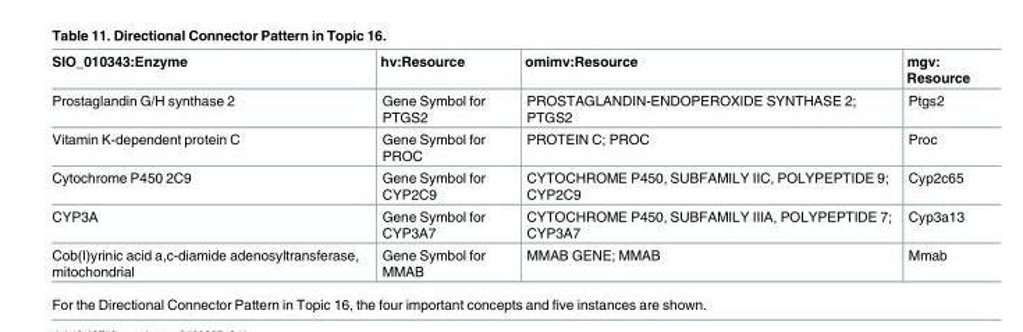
<table><thead><tr><td>SIO_010343:Enzyme</td><td>hv:Resource</td><td>omimv:Resource</td><td>mgv: Resource</td></tr></thead><tbody><tr><td>Prostaglandin G/H synthase 2</td><td>Gene Symbol for PTGS2</td><td>PROSTAGLANDIN-ENDOPEROXIDE SYNTHASE 2; PTGS2</td><td>Ptgs2</td></tr><tr><td>Vitamin K-dependent protein C</td><td>Gene Symbol for PROC</td><td>PROTEIN C; PROC</td><td>Proc</td></tr><tr><td>Cytochrome P450 2C9</td><td>Gene Symbol for CYP2C9</td><td>CYTOCHROME P450, SUBFAMILY IIC, POLYPEPTIDE 9; CYP2C9</td><td>Cyp2c65</td></tr><tr><td>CYP3A</td><td>Gene Symbol for CYP3A7</td><td>CYTOCHROME P450, SUBFAMILY IIIA, POLYPEPTIDE 7; CYP3A7</td><td>Cyp3a13</td></tr><tr><td>Cob(I)yrinic acid a,c-diamide adenosyltransferase, mitochondrial</td><td>Gene Symbol for MMAB</td><td>MMAB GENE; MMAB</td><td>Mmab</td></tr></tbody></table>